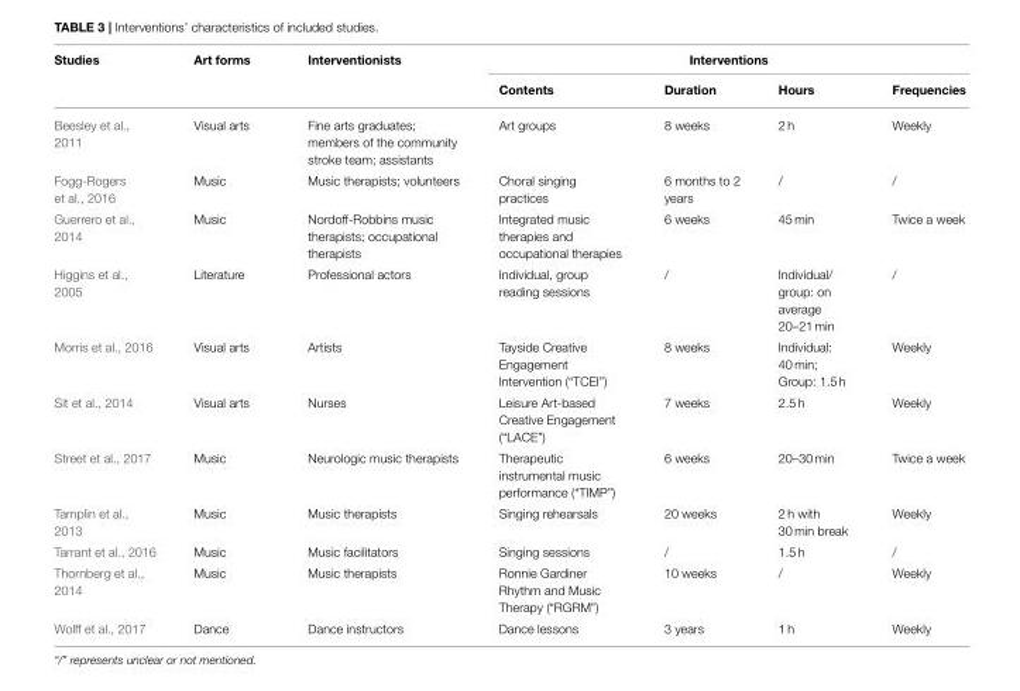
<table><thead><tr><td rowspan="2">Studies</td><td rowspan="2">Art forms</td><td rowspan="2">Interventionists</td><td colspan="4">Interventions</td></tr><tr><td>Contents</td><td>Duration</td><td>Hours</td><td>Frequencies</td></tr></thead><tbody><tr><td>Beesley et al., 2011</td><td>Visual arts</td><td>Fine arts graduates; members of the community stroke team; assistants</td><td>Art groups</td><td>8 weeks</td><td>2 h</td><td>Weekly</td></tr><tr><td>Fogg-Rogers et al., 2016</td><td>Music</td><td>Music therapists; volunteers</td><td>Choral singing practices</td><td>6 months to 2 years</td><td>/</td><td>/</td></tr><tr><td>Guerrero et al., 2014</td><td>Music</td><td>Nordoff-Robbins music therapists; occupational therapists</td><td>Integrated music therapies and occupational therapies</td><td>6 weeks</td><td>45 min</td><td>Twice a week</td></tr><tr><td>Higgins et al., 2005</td><td>Literature</td><td>Professional actors</td><td>Individual, group reading sessions</td><td>/</td><td>Individual/ group: on average 20–21 min</td><td>/</td></tr><tr><td>Morris et al., 2016</td><td>Visual arts</td><td>Artists</td><td>Tayside Creative Engagement Intervention (“TCEI”)</td><td>8 weeks</td><td>Individual: 40 min; Group: 1.5 h</td><td>Weekly</td></tr><tr><td>Sit et al., 2014</td><td>Visual arts</td><td>Nurses</td><td>Leisure Art-based Creative Engagement (“LACE”)</td><td>7 weeks</td><td>2.5 h</td><td>Weekly</td></tr><tr><td>Street et al., 2017</td><td>Music</td><td>Neurologic music therapists</td><td>Therapeutic instrumental music performance (“TIMP”)</td><td>6 weeks</td><td>20–30 min</td><td>Twice a week</td></tr><tr><td>Tamplin et al., 2013</td><td>Music</td><td>Music therapists</td><td>Singing rehearsals</td><td>20 weeks</td><td>2 h with 30 min break</td><td>Weekly</td></tr><tr><td>Tarrant et al., 2016</td><td>Music</td><td>Music facilitators</td><td>Singing sessions</td><td>/</td><td>1.5 h</td><td>/</td></tr><tr><td>Thornberg et al., 2014</td><td>Music</td><td>Music therapists</td><td>Ronnie Gardiner Rhythm and Music Therapy (“RGRM”)</td><td>10 weeks</td><td>/</td><td>Weekly</td></tr><tr><td>Wolff et al., 2017</td><td>Dance</td><td>Dance instructors</td><td>Dance lessons</td><td>3 years</td><td>1 h</td><td>Weekly</td></tr></tbody></table>